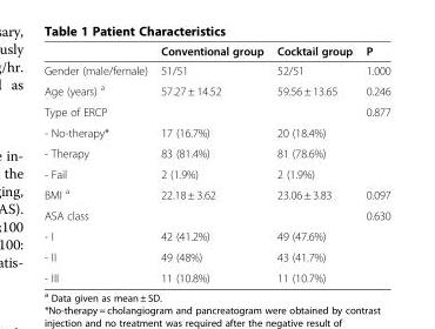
<table><thead><tr><td></td><td>Conventional group</td><td>Cocktail group</td><td>P</td></tr></thead><tbody><tr><td>Gender (male/female)</td><td>51/51</td><td>52/51</td><td>1.000</td></tr><tr><td>Age (years) <sup>a</sup></td><td>57.27 ± 14.52</td><td>59.56 ± 13.65</td><td>0.246</td></tr><tr><td>Type of ERCP</td><td></td><td></td><td>0.877</td></tr><tr><td>- No-therapy*</td><td>17 (16.7%)</td><td>20 (18.4%)</td><td></td></tr><tr><td>- Therapy</td><td>83 (81.4%)</td><td>81 (78.6%)</td><td></td></tr><tr><td>- Fail</td><td>2 (1.9%)</td><td>2 (1.9%)</td><td></td></tr><tr><td>BMI <sup>a</sup></td><td>22.18 ± 3.62</td><td>23.06 ± 3.83</td><td>0.097</td></tr><tr><td>ASA class</td><td></td><td></td><td>0.630</td></tr><tr><td>- I</td><td>42 (41.2%)</td><td>49 (47.6%)</td><td></td></tr><tr><td>- II</td><td>49 (48%)</td><td>43 (41.7%)</td><td></td></tr><tr><td>- III</td><td>11 (10.8%)</td><td>11 (10.7%)</td><td></td></tr></tbody></table>